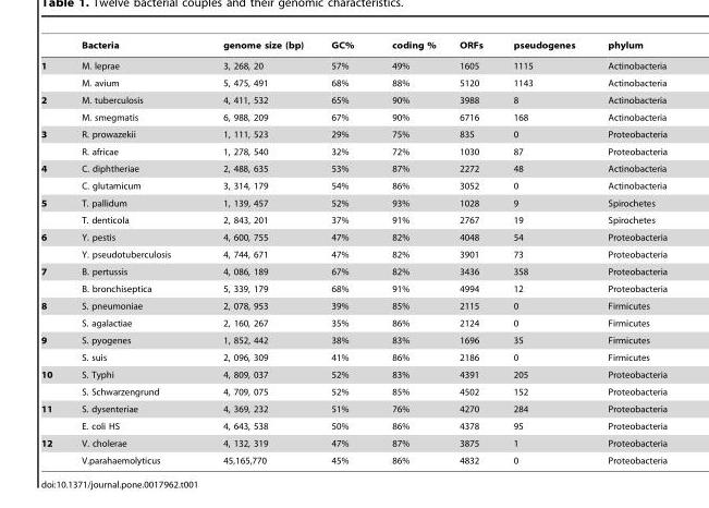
<table><thead><tr><td></td><td>Bacteria</td><td>genome size (bp)</td><td>GC%</td><td>coding %</td><td>ORFs</td><td>pseudogenes</td><td>phylum</td></tr></thead><tbody><tr><td rowspan="2">1</td><td>M. leprae</td><td>3, 268, 20</td><td>57%</td><td>49%</td><td>1605</td><td>1115</td><td>Actinobacteria</td></tr><tr><td>M. avium</td><td>5, 475, 491</td><td>68%</td><td>88%</td><td>5120</td><td>1143</td><td>Actinobacteria</td></tr><tr><td rowspan="2">2</td><td>M. tuberculosis</td><td>4, 411, 532</td><td>65%</td><td>90%</td><td>3988</td><td>8</td><td>Actinobacteria</td></tr><tr><td>M. smegmatis</td><td>6, 988, 209</td><td>67%</td><td>90%</td><td>6716</td><td>168</td><td>Actinobacteria</td></tr><tr><td rowspan="2">3</td><td>R. prowazekii</td><td>1, 111, 523</td><td>29%</td><td>75%</td><td>835</td><td>0</td><td>Proteobacteria</td></tr><tr><td>R. africae</td><td>1, 278, 540</td><td>32%</td><td>72%</td><td>1030</td><td>87</td><td>Proteobacteria</td></tr><tr><td rowspan="2">4</td><td>C. diphtheriae</td><td>2, 488, 635</td><td>53%</td><td>87%</td><td>2272</td><td>48</td><td>Actinobacteria</td></tr><tr><td>C. glutamicum</td><td>3, 314, 179</td><td>54%</td><td>86%</td><td>3052</td><td>0</td><td>Actinobacteria</td></tr><tr><td rowspan="2">5</td><td>T. pallidum</td><td>1, 139, 457</td><td>52%</td><td>93%</td><td>1028</td><td>9</td><td>Spirochetes</td></tr><tr><td>T. denticola</td><td>2, 843, 201</td><td>37%</td><td>91%</td><td>2767</td><td>19</td><td>Spirochetes</td></tr><tr><td rowspan="2">6</td><td>Y. pestis</td><td>4, 600, 755</td><td>47%</td><td>82%</td><td>4048</td><td>54</td><td>Proteobacteria</td></tr><tr><td>Y. pseudotuberculosis</td><td>4, 744, 671</td><td>47%</td><td>82%</td><td>3901</td><td>73</td><td>Proteobacteria</td></tr><tr><td rowspan="2">7</td><td>B. pertussis</td><td>4, 086, 189</td><td>67%</td><td>82%</td><td>3436</td><td>358</td><td>Proteobacteria</td></tr><tr><td>B. bronchiseptica</td><td>5, 339, 179</td><td>68%</td><td>91%</td><td>4994</td><td>12</td><td>Proteobacteria</td></tr><tr><td rowspan="2">8</td><td>S. pneumoniae</td><td>2, 078, 953</td><td>39%</td><td>85%</td><td>2115</td><td>0</td><td>Firmicutes</td></tr><tr><td>S. agalactiae</td><td>2, 160, 267</td><td>35%</td><td>86%</td><td>2124</td><td>0</td><td>Firmicutes</td></tr><tr><td rowspan="2">9</td><td>S. pyogenes</td><td>1, 852, 442</td><td>38%</td><td>83%</td><td>1696</td><td>35</td><td>Firmicutes</td></tr><tr><td>S. suis</td><td>2, 096, 309</td><td>41%</td><td>86%</td><td>2186</td><td>0</td><td>Firmicutes</td></tr><tr><td rowspan="2">10</td><td>S. Typhi</td><td>4, 809, 037</td><td>52%</td><td>83%</td><td>4391</td><td>205</td><td>Proteobacteria</td></tr><tr><td>S. Schwarzengrund</td><td>4, 709, 075</td><td>52%</td><td>85%</td><td>4502</td><td>152</td><td>Proteobacteria</td></tr><tr><td rowspan="2">11</td><td>S. dysenteriae</td><td>4, 369, 232</td><td>51%</td><td>76%</td><td>4270</td><td>284</td><td>Proteobacteria</td></tr><tr><td>E. coli HS</td><td>4, 643, 538</td><td>50%</td><td>86%</td><td>4378</td><td>95</td><td>Proteobacteria</td></tr><tr><td rowspan="2">12</td><td>V. cholerae</td><td>4, 132, 319</td><td>47%</td><td>87%</td><td>3875</td><td>1</td><td>Proteobacteria</td></tr><tr><td>V.parahaemolyticus</td><td>45,165,770</td><td>45%</td><td>86%</td><td>4832</td><td>0</td><td>Proteobacteria</td></tr></tbody></table>